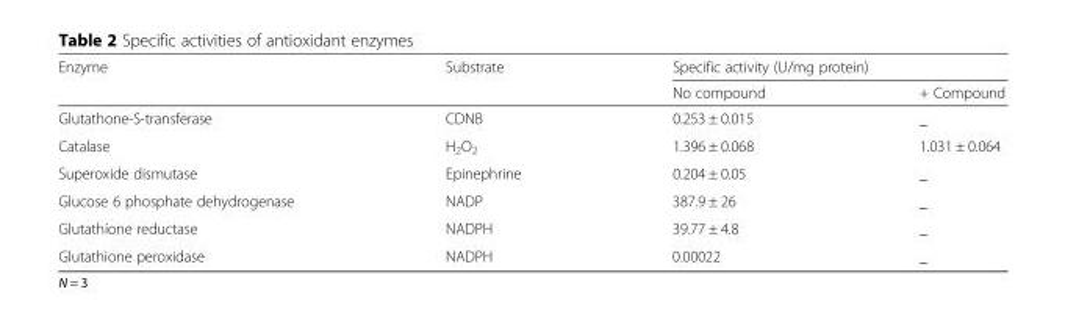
<table><thead><tr><td rowspan="2">Enzyme</td><td rowspan="2">Substrate</td><td colspan="2">Specific activity (U/mg protein)</td></tr><tr><td>No compound</td><td>+ Compound</td></tr></thead><tbody><tr><td>Glutathone-S-transferase</td><td>CDNB</td><td>0.253 ± 0.015</td><td>_</td></tr><tr><td>Catalase</td><td>H<sub>2</sub>O<sub>2</sub></td><td>1.396 ± 0.068</td><td>1.031 ± 0.064</td></tr><tr><td>Superoxide dismutase</td><td>Epinephrine</td><td>0.204 ± 0.05</td><td>_</td></tr><tr><td>Glucose 6 phosphate dehydrogenase</td><td>NADP</td><td>387.9 ± 26</td><td>_</td></tr><tr><td>Glutathione reductase</td><td>NADPH</td><td>39.77 ± 4.8</td><td>_</td></tr><tr><td>Glutathione peroxidase</td><td>NADPH</td><td>0.00022</td><td>_</td></tr></tbody></table>